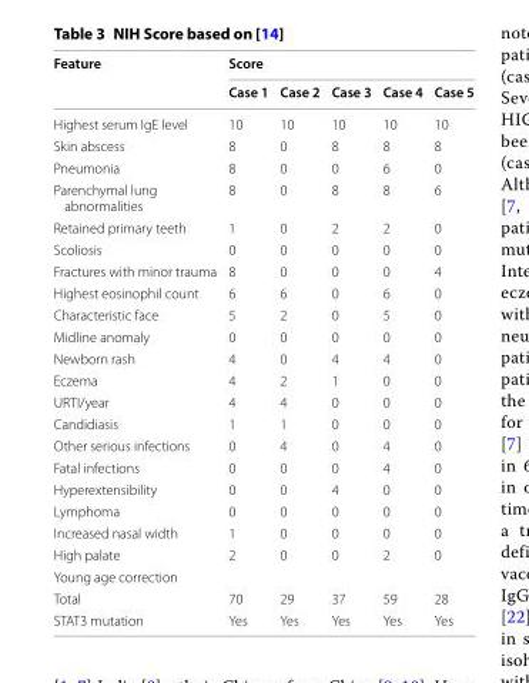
<table><thead><tr><td rowspan="2">Feature</td><td colspan="5">Score</td></tr><tr><td>Case 1</td><td>Case 2</td><td>Case 3</td><td>Case 4</td><td>Case 5</td></tr></thead><tbody><tr><td>Highest serum IgE level</td><td>10</td><td>10</td><td>10</td><td>10</td><td>10</td></tr><tr><td>Skin abscess</td><td>8</td><td>0</td><td>8</td><td>8</td><td>8</td></tr><tr><td>Pneumonia</td><td>8</td><td>0</td><td>0</td><td>6</td><td>0</td></tr><tr><td>Parenchymal lung abnormalities</td><td>8</td><td>0</td><td>8</td><td>8</td><td>6</td></tr><tr><td>Retained primary teeth</td><td>1</td><td>0</td><td>2</td><td>2</td><td>0</td></tr><tr><td>Scoliosis</td><td>0</td><td>0</td><td>0</td><td>0</td><td>0</td></tr><tr><td>Fractures with minor trauma</td><td>8</td><td>0</td><td>0</td><td>0</td><td>4</td></tr><tr><td>Highest eosinophil count</td><td>6</td><td>6</td><td>0</td><td>6</td><td>0</td></tr><tr><td>Characteristic face</td><td>5</td><td>2</td><td>0</td><td>5</td><td>0</td></tr><tr><td>Midline anomaly</td><td>0</td><td>0</td><td>0</td><td>0</td><td>0</td></tr><tr><td>Newborn rash</td><td>4</td><td>0</td><td>4</td><td>4</td><td>0</td></tr><tr><td>Eczema</td><td>4</td><td>2</td><td>1</td><td>0</td><td>0</td></tr><tr><td>URTI/year</td><td>4</td><td>4</td><td>0</td><td>0</td><td>0</td></tr><tr><td>Candidiasis</td><td>1</td><td>1</td><td>0</td><td>0</td><td>0</td></tr><tr><td>Other serious infections</td><td>0</td><td>4</td><td>0</td><td>4</td><td>0</td></tr><tr><td>Fatal infections</td><td>0</td><td>0</td><td>0</td><td>4</td><td>0</td></tr><tr><td>Hyperextensibility</td><td>0</td><td>0</td><td>4</td><td>0</td><td>0</td></tr><tr><td>Lymphoma</td><td>0</td><td>0</td><td>0</td><td>0</td><td>0</td></tr><tr><td>Increased nasal width</td><td>1</td><td>0</td><td>0</td><td>0</td><td>0</td></tr><tr><td>High palate</td><td>2</td><td>0</td><td>0</td><td>2</td><td>0</td></tr><tr><td colspan="6">Young age correction</td></tr><tr><td>Total</td><td>70</td><td>29</td><td>37</td><td>59</td><td>28</td></tr><tr><td>STAT3 mutation</td><td>Yes</td><td>Yes</td><td>Yes</td><td>Yes</td><td>Yes</td></tr></tbody></table>